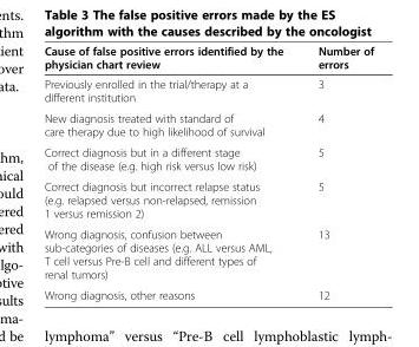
<table><thead><tr><td>Cause of false positive errors identified by the physician chart review</td><td>Number of errors</td></tr></thead><tbody><tr><td>Previously enrolled in the trial/therapy at a different institution</td><td>3</td></tr><tr><td>New diagnosis treated with standard of care therapy due to high likelihood of survival</td><td>4</td></tr><tr><td>Correct diagnosis but in a different stage of the disease (e.g. high risk versus low risk)</td><td>5</td></tr><tr><td>Correct diagnosis but incorrect relapse status (e.g. relapsed versus non-relapsed, remission 1 versus remission 2)</td><td>5</td></tr><tr><td>Wrong diagnosis, confusion between sub-categories of diseases (e.g. ALL versus AML, T cell versus Pre-B cell and different types of renal tumors)</td><td>13</td></tr><tr><td>Wrong diagnosis, other reasons</td><td>12</td></tr></tbody></table>